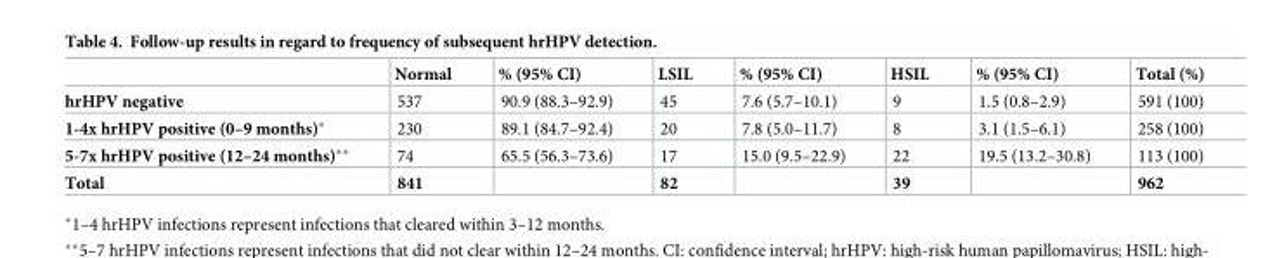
<table><thead><tr><td></td><td>Normal</td><td>% (95% CI)</td><td>LSIL</td><td>% (95% CI)</td><td>HSIL</td><td>% (95% CI)</td><td>Total (%)</td></tr></thead><tbody><tr><td>hrHPV negative</td><td>537</td><td>90.9 (88.3–92.9)</td><td>45</td><td>7.6 (5.7–10.1)</td><td>9</td><td>1.5 (0.8–2.9)</td><td>591 (100)</td></tr><tr><td>1-4x hrHPV positive (0–9 months)*</td><td>230</td><td>89.1 (84.7–92.4)</td><td>20</td><td>7.8 (5.0–11.7)</td><td>8</td><td>3.1 (1.5–6.1)</td><td>258 (100)</td></tr><tr><td>5-7x hrHPV positive (12–24 months)**</td><td>74</td><td>65.5 (56.3–73.6)</td><td>17</td><td>15.0 (9.5–22.9)</td><td>22</td><td>19.5 (13.2–30.8)</td><td>113 (100)</td></tr><tr><td>Total</td><td>841</td><td></td><td>82</td><td></td><td>39</td><td></td><td>962</td></tr></tbody></table>